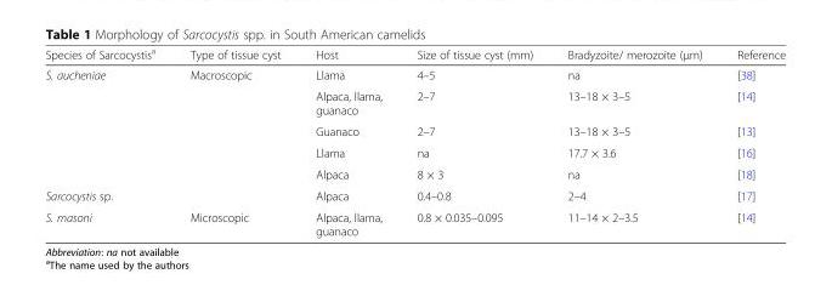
<table><thead><tr><td>Species of Sarcocystis<sup>a</sup></td><td>Type of tissue cyst</td><td>Host</td><td>Size of tissue cyst (mm)</td><td>Bradyzoite/ merozoite (μm)</td><td>Reference</td></tr></thead><tbody><tr><td rowspan="5">S. aucheniae</td><td rowspan="6">Macroscopic</td><td>Llama</td><td>4–5</td><td>na</td><td>[38]</td></tr><tr><td>Alpaca, llama, guanaco</td><td>2–7</td><td>13–18 × 3–5</td><td>[14]</td></tr><tr><td>Guanaco</td><td>2–7</td><td>13–18 × 3–5</td><td>[13]</td></tr><tr><td>Llama</td><td>na</td><td>17.7 × 3.6</td><td>[16]</td></tr><tr><td>Alpaca</td><td>8 × 3</td><td>na</td><td>[18]</td></tr><tr><td>Sarcocystis sp.</td><td>Alpaca</td><td>0.4–0.8</td><td>2–4</td><td>[17]</td></tr><tr><td>S. masoni</td><td>Microscopic</td><td>Alpaca, llama, guanaco</td><td>0.8 × 0.035–0.095</td><td>11–14 × 2–3.5</td><td>[14]</td></tr></tbody></table>